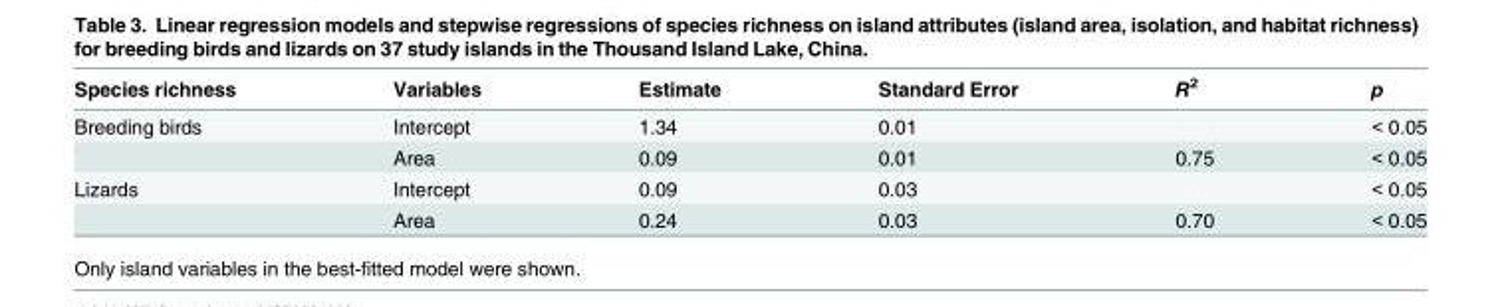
<table><thead><tr><td>Species richness</td><td>Variables</td><td>Estimate</td><td>Standard Error</td><td>R<sup>2</sup></td><td>p</td></tr></thead><tbody><tr><td rowspan="2">Breeding birds</td><td>Intercept</td><td>1.34</td><td>0.01</td><td></td><td>&lt; 0.05</td></tr><tr><td>Area</td><td>0.09</td><td>0.01</td><td>0.75</td><td>&lt; 0.05</td></tr><tr><td rowspan="2">Lizards</td><td>Intercept</td><td>0.09</td><td>0.03</td><td></td><td>&lt; 0.05</td></tr><tr><td>Area</td><td>0.24</td><td>0.03</td><td>0.70</td><td>&lt; 0.05</td></tr></tbody></table>